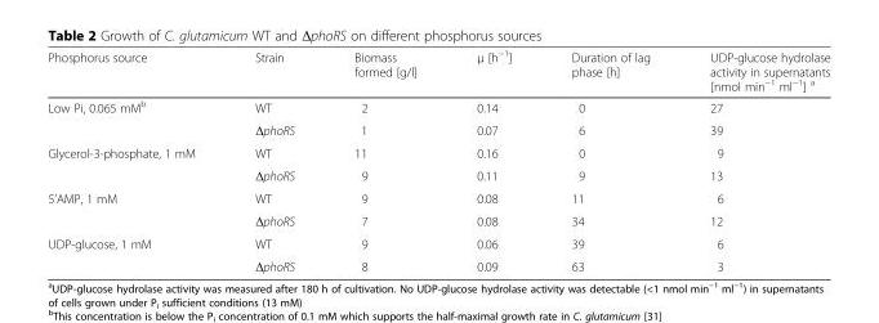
<table><thead><tr><td>Phosphorus source</td><td>Strain</td><td>Biomass formed [g/l]</td><td>μ [h<sup>−1</sup>]</td><td>Duration of lag phase [h]</td><td>UDP-glucose hydrolase activity in supernatants [nmol min<sup>−1</sup> ml<sup>−1</sup>] <sup>a</sup></td></tr></thead><tbody><tr><td rowspan="2">Low Pi, 0.065 mM<sup>b</sup></td><td>WT</td><td>2</td><td>0.14</td><td>0</td><td>27</td></tr><tr><td>ΔphoRS</td><td>1</td><td>0.07</td><td>6</td><td>39</td></tr><tr><td rowspan="2">Glycerol-3-phosphate, 1 mM</td><td>WT</td><td>11</td><td>0.16</td><td>0</td><td>9</td></tr><tr><td>ΔphoRS</td><td>9</td><td>0.11</td><td>9</td><td>13</td></tr><tr><td rowspan="2">5’AMP, 1 mM</td><td>WT</td><td>9</td><td>0.08</td><td>11</td><td>6</td></tr><tr><td>ΔphoRS</td><td>7</td><td>0.08</td><td>34</td><td>12</td></tr><tr><td rowspan="2">UDP-glucose, 1 mM</td><td>WT</td><td>9</td><td>0.06</td><td>39</td><td>6</td></tr><tr><td>ΔphoRS</td><td>8</td><td>0.09</td><td>63</td><td>3</td></tr></tbody></table>